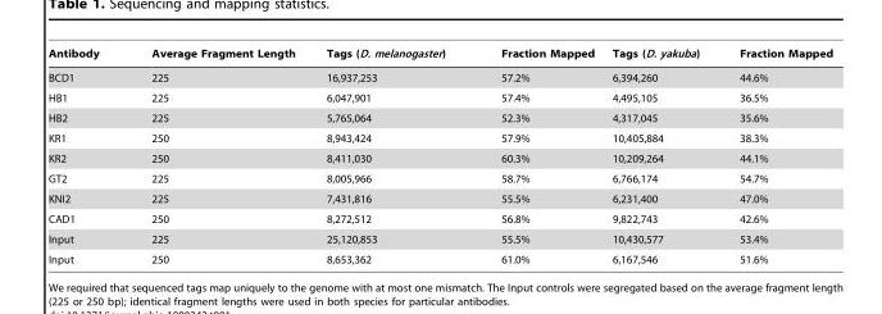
<table><thead><tr><td>Antibody</td><td>Average Fragment Length</td><td>Tags (D. melanogaster)</td><td>Fraction Mapped</td><td>Tags (D. yakuba)</td><td>Fraction Mapped</td></tr></thead><tbody><tr><td>BCD1</td><td>225</td><td>16,937,253</td><td>57.2%</td><td>6,394,260</td><td>44.6%</td></tr><tr><td>HB1</td><td>225</td><td>6,047,901</td><td>57.4%</td><td>4,495,105</td><td>36.5%</td></tr><tr><td>HB2</td><td>225</td><td>5,765,064</td><td>52.3%</td><td>4,317,045</td><td>35.6%</td></tr><tr><td>KR1</td><td>250</td><td>8,943,424</td><td>57.9%</td><td>10,405,884</td><td>38.3%</td></tr><tr><td>KR2</td><td>250</td><td>8,411,030</td><td>60.3%</td><td>10,209,264</td><td>44.1%</td></tr><tr><td>GT2</td><td>225</td><td>8,005,966</td><td>58.7%</td><td>6,766,174</td><td>54.7%</td></tr><tr><td>KNI2</td><td>225</td><td>7,431,816</td><td>55.5%</td><td>6,231,400</td><td>47.0%</td></tr><tr><td>CAD1</td><td>250</td><td>8,272,512</td><td>56.8%</td><td>9,822,743</td><td>42.6%</td></tr><tr><td>Input</td><td>225</td><td>25,120,853</td><td>55.5%</td><td>10,430,577</td><td>53.4%</td></tr><tr><td>Input</td><td>250</td><td>8,653,362</td><td>61.0%</td><td>6,167,546</td><td>51.6%</td></tr></tbody></table>